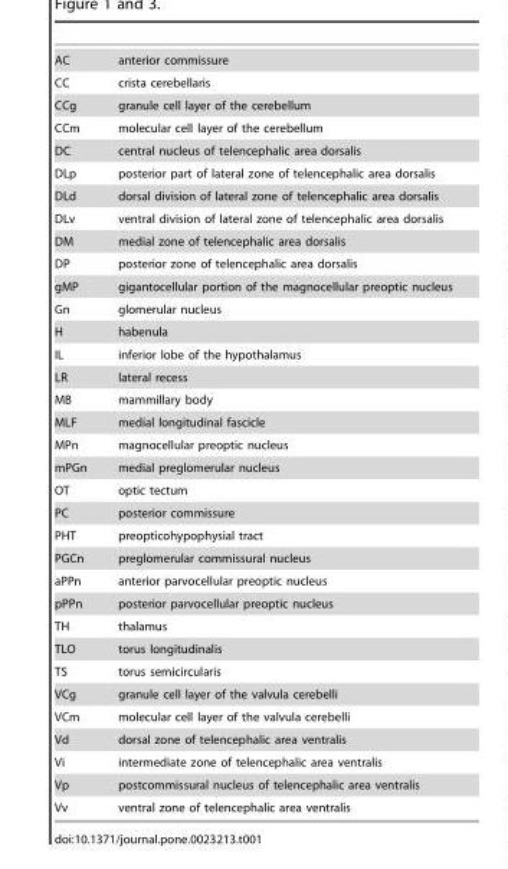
<table><tbody><tr><td>AC</td><td>anterior commissure</td></tr><tr><td>CC</td><td>crista cerebellaris</td></tr><tr><td>CCg</td><td>granule cell layer of the cerebellum</td></tr><tr><td>CCm</td><td>molecular cell layer of the cerebellum</td></tr><tr><td>DC</td><td>central nucleus of telencephalic area dorsalis</td></tr><tr><td>DLp</td><td>posterior part of lateral zone of telencephalic area dorsalis</td></tr><tr><td>DLd</td><td>dorsal division of lateral zone of telencephalic area dorsalis</td></tr><tr><td>DLv</td><td>ventral division of lateral zone of telencephalic area dorsalis</td></tr><tr><td>DM</td><td>medial zone of telencephalic area dorsalis</td></tr><tr><td>DP</td><td>posterior zone of telencephalic area dorsalis</td></tr><tr><td>gMP</td><td>gigantocellular portion of the magnocellular preoptic nucleus</td></tr><tr><td>Gn</td><td>glomerular nucleus</td></tr><tr><td>H</td><td>habenula</td></tr><tr><td>IL</td><td>inferior lobe of the hypothalamus</td></tr><tr><td>LR</td><td>lateral recess</td></tr><tr><td>MB</td><td>mammillary body</td></tr><tr><td>MLF</td><td>medial longitudinal fascicle</td></tr><tr><td>MPn</td><td>magnocellular preoptic nucleus</td></tr><tr><td>mPGn</td><td>medial preglomerular nucleus</td></tr><tr><td>OT</td><td>optic tectum</td></tr><tr><td>PC</td><td>posterior commissure</td></tr><tr><td>PHT</td><td>preopticohypophysial tract</td></tr><tr><td>PGCn</td><td>preglomerular commissural nucleus</td></tr><tr><td>aPPn</td><td>anterior parvocellular preoptic nucleus</td></tr><tr><td>pPPn</td><td>posterior parvocellular preoptic nucleus</td></tr><tr><td>TH</td><td>thalamus</td></tr><tr><td>TLO</td><td>torus longitudinalis</td></tr><tr><td>TS</td><td>torus semicircularis</td></tr><tr><td>VCg</td><td>granule cell layer of the valvula cerebelli</td></tr><tr><td>VCm</td><td>molecular cell layer of the valvula cerebelli</td></tr><tr><td>Vd</td><td>dorsal zone of telencephalic area ventralis</td></tr><tr><td>Vi</td><td>intermediate zone of telencephalic area ventralis</td></tr><tr><td>Vp</td><td>postcommissural nucleus of telencephalic area ventralis</td></tr><tr><td>Vv</td><td>ventral zone of telencephalic area ventralis</td></tr></tbody></table>